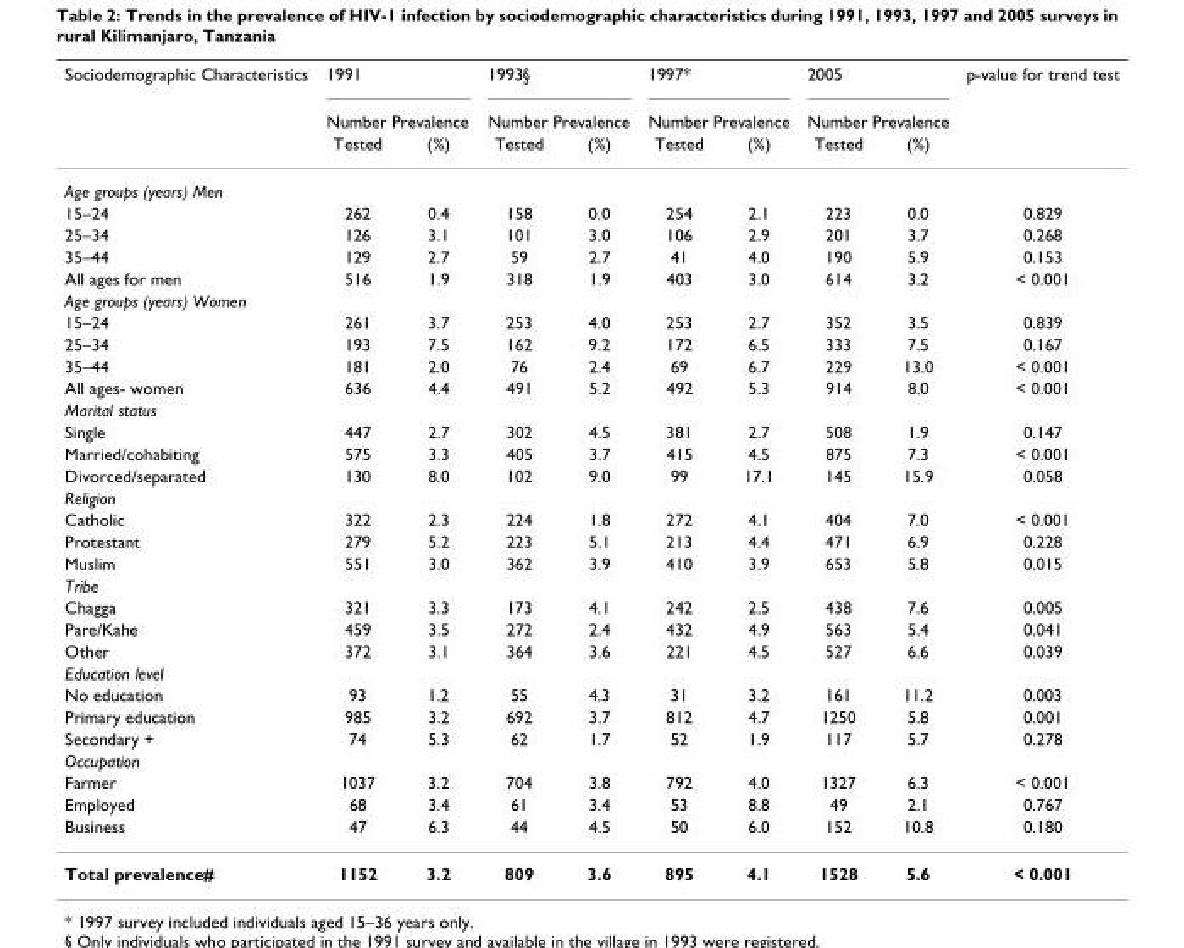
<table><thead><tr><td rowspan="3">Sociodemographic Characteristics</td><td rowspan="2" colspan="2">1991 Number Prevalence</td><td rowspan="2" colspan="2">1993§ Number Prevalence</td><td rowspan="2" colspan="2">1997* Number Prevalence</td><td rowspan="2" colspan="2">2005 Number Prevalence</td><td rowspan="3">p-value for trend test</td></tr><tr></tr><tr><td>Tested</td><td>(%)</td><td>Tested</td><td>(%)</td><td>Tested</td><td>(%)</td><td>Tested</td><td>(%)</td></tr></thead><tbody><tr><td colspan="10">Age groups (years) Men</td></tr><tr><td>15–24</td><td>262</td><td>0.4</td><td>158</td><td>0.0</td><td>254</td><td>2.1</td><td>223</td><td>0.0</td><td>0.829</td></tr><tr><td>25–34</td><td>126</td><td>3.1</td><td>101</td><td>3.0</td><td>106</td><td>2.9</td><td>201</td><td>3.7</td><td>0.268</td></tr><tr><td>35–44</td><td>129</td><td>2.7</td><td>59</td><td>2.7</td><td>41</td><td>4.0</td><td>190</td><td>5.9</td><td>0.153</td></tr><tr><td>All ages for men</td><td>516</td><td>1.9</td><td>318</td><td>1.9</td><td>403</td><td>3.0</td><td>614</td><td>3.2</td><td>&lt; 0.001</td></tr><tr><td colspan="10">Age groups (years) Women</td></tr><tr><td>15–24</td><td>261</td><td>3.7</td><td>253</td><td>4.0</td><td>253</td><td>2.7</td><td>352</td><td>3.5</td><td>0.839</td></tr><tr><td>25–34</td><td>193</td><td>7.5</td><td>162</td><td>9.2</td><td>172</td><td>6.5</td><td>333</td><td>7.5</td><td>0.167</td></tr><tr><td>35–44</td><td>181</td><td>2.0</td><td>76</td><td>2.4</td><td>69</td><td>6.7</td><td>229</td><td>13.0</td><td>&lt; 0.001</td></tr><tr><td>All ages- women</td><td>636</td><td>4.4</td><td>491</td><td>5.2</td><td>492</td><td>5.3</td><td>914</td><td>8.0</td><td>&lt; 0.001</td></tr><tr><td colspan="10">Marital status</td></tr><tr><td>Single</td><td>447</td><td>2.7</td><td>302</td><td>4.5</td><td>381</td><td>2.7</td><td>508</td><td>1.9</td><td>0.147</td></tr><tr><td>Married/cohabiting</td><td>575</td><td>3.3</td><td>405</td><td>3.7</td><td>415</td><td>4.5</td><td>875</td><td>7.3</td><td>&lt; 0.001</td></tr><tr><td>Divorced/separated</td><td>130</td><td>8.0</td><td>102</td><td>9.0</td><td>99</td><td>17.1</td><td>145</td><td>15.9</td><td>0.058</td></tr><tr><td colspan="10">Religion</td></tr><tr><td>Catholic</td><td>322</td><td>2.3</td><td>224</td><td>1.8</td><td>272</td><td>4.1</td><td>404</td><td>7.0</td><td>&lt; 0.001</td></tr><tr><td>Protestant</td><td>279</td><td>5.2</td><td>223</td><td>5.1</td><td>213</td><td>4.4</td><td>471</td><td>6.9</td><td>0.228</td></tr><tr><td>Muslim</td><td>551</td><td>3.0</td><td>362</td><td>3.9</td><td>410</td><td>3.9</td><td>653</td><td>5.8</td><td>0.015</td></tr><tr><td colspan="10">Tribe</td></tr><tr><td>Chagga</td><td>321</td><td>3.3</td><td>173</td><td>4.1</td><td>242</td><td>2.5</td><td>438</td><td>7.6</td><td>0.005</td></tr><tr><td>Pare/Kahe</td><td>459</td><td>3.5</td><td>272</td><td>2.4</td><td>432</td><td>4.9</td><td>563</td><td>5.4</td><td>0.041</td></tr><tr><td>Other</td><td>372</td><td>3.1</td><td>364</td><td>3.6</td><td>221</td><td>4.5</td><td>527</td><td>6.6</td><td>0.039</td></tr><tr><td colspan="10">Education level</td></tr><tr><td>No education</td><td>93</td><td>1.2</td><td>55</td><td>4.3</td><td>31</td><td>3.2</td><td>161</td><td>11.2</td><td>0.003</td></tr><tr><td>Primary education</td><td>985</td><td>3.2</td><td>692</td><td>3.7</td><td>812</td><td>4.7</td><td>1250</td><td>5.8</td><td>0.001</td></tr><tr><td>Secondary +</td><td>74</td><td>5.3</td><td>62</td><td>1.7</td><td>52</td><td>1.9</td><td>117</td><td>5.7</td><td>0.278</td></tr><tr><td colspan="10">Occupation</td></tr><tr><td>Farmer</td><td>1037</td><td>3.2</td><td>704</td><td>3.8</td><td>792</td><td>4.0</td><td>1327</td><td>6.3</td><td>&lt; 0.001</td></tr><tr><td>Employed</td><td>68</td><td>3.4</td><td>61</td><td>3.4</td><td>53</td><td>8.8</td><td>49</td><td>2.1</td><td>0.767</td></tr><tr><td>Business</td><td>47</td><td>6.3</td><td>44</td><td>4.5</td><td>50</td><td>6.0</td><td>152</td><td>10.8</td><td>0.180</td></tr><tr><td>Total prevalence#</td><td>1152</td><td>3.2</td><td>809</td><td>3.6</td><td>895</td><td>4.1</td><td>1528</td><td>5.6</td><td>&lt; 0.001</td></tr></tbody></table>